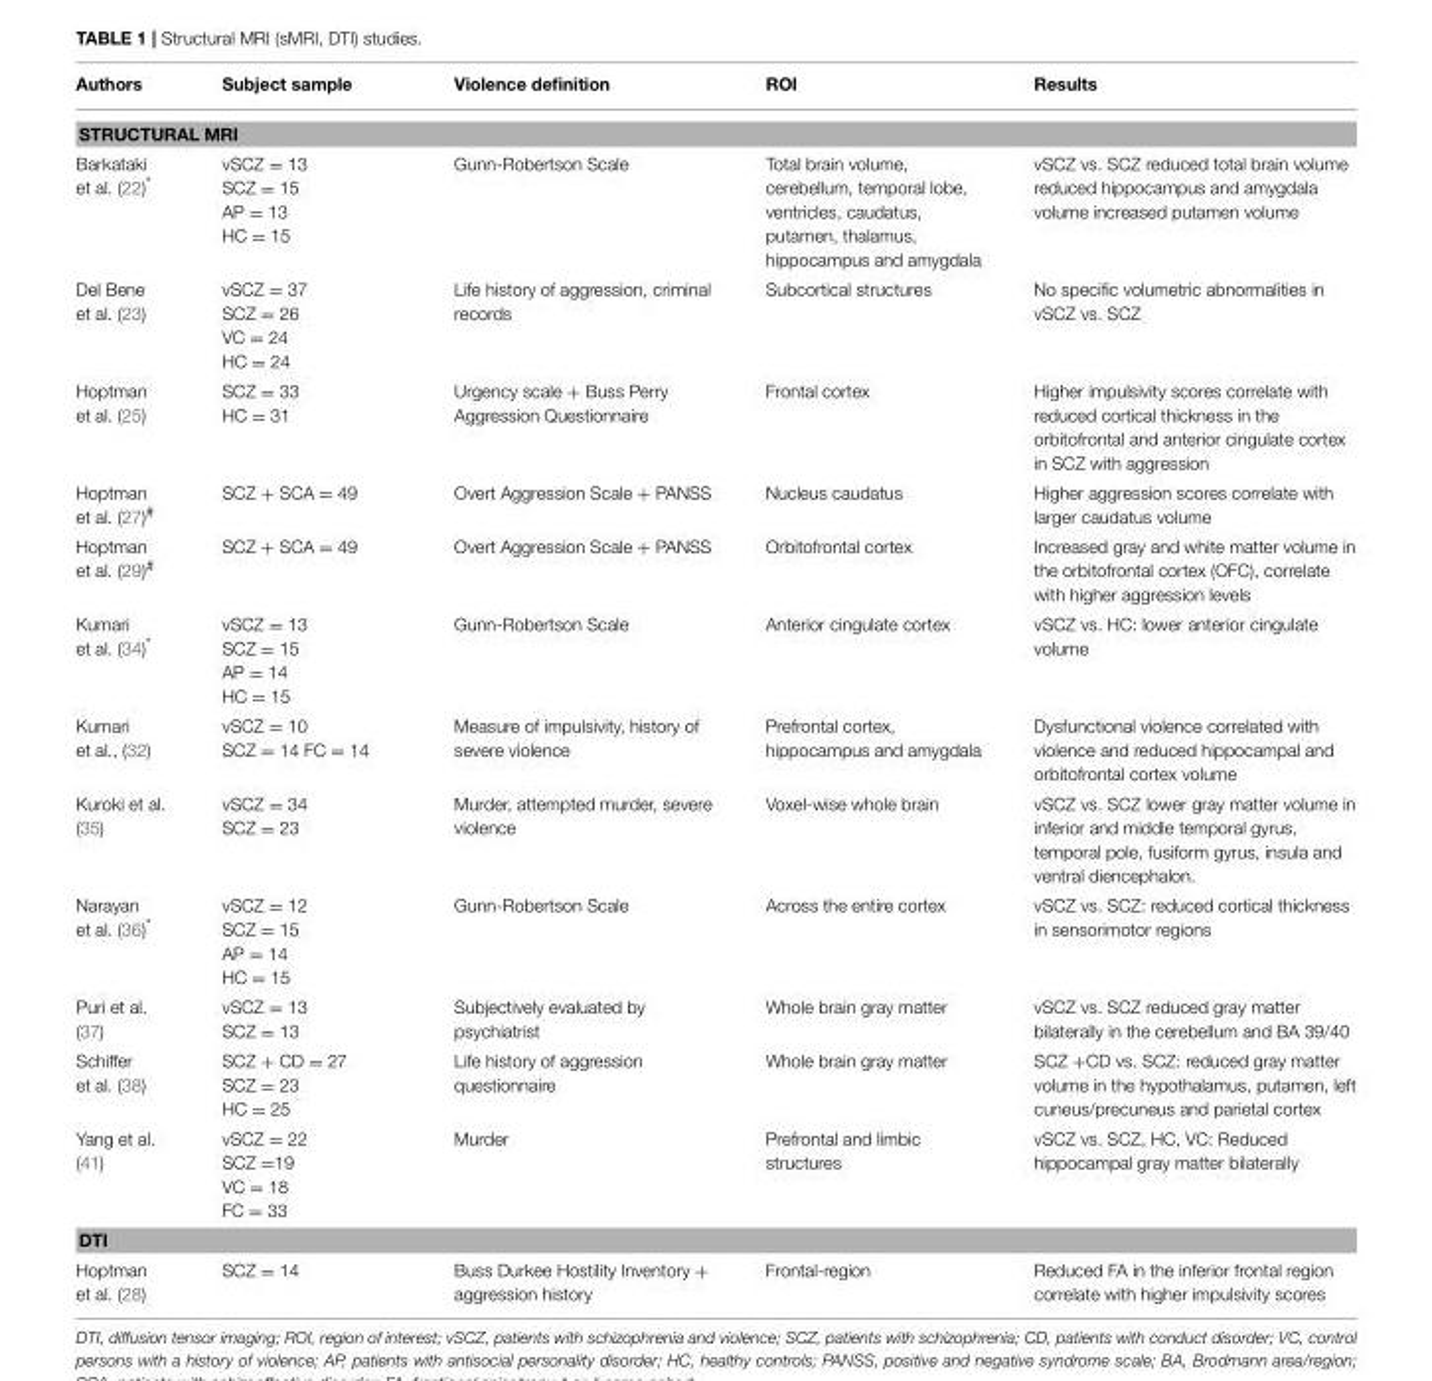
<table><thead><tr><td>Authors</td><td>Subject sample</td><td>Violence definition</td><td>ROI</td><td>Results</td></tr></thead><tbody><tr><td colspan="5">STRUCTURAL MRI</td></tr><tr><td>Barkataki et al. (22)*</td><td>vSCZ = 13 SCZ = 15 AP = 13 HC = 15</td><td>Gunn-Robertson Scale</td><td>Total brain volume, cerebellum, temporal lobe, ventricles, caudatus, putamen, thalamus, hippocampus and amygdala</td><td>vSCZ vs. SCZ reduced total brain volume reduced hippocampus and amygdala volume increased putamen volume</td></tr><tr><td>Del Bene et al. (23)</td><td>vSCZ = 37 SCZ = 26 VC = 24 HC = 24</td><td>Life history of aggression, criminal records</td><td>Subcortical structures</td><td>No specific volumetric abnormalities in vSCZ vs. SCZ</td></tr><tr><td>Hoptman et al. (25)</td><td>SCZ = 33 HC = 31</td><td>Urgency scale + Buss Perry Aggression Questionnaire</td><td>Frontal cortex</td><td>Higher impulsivity scores correlate with reduced cortical thickness in the orbitofrontal and anterior cingulate cortex in SCZ with aggression</td></tr><tr><td>Hoptman et al. (27)<sup>#</sup></td><td>SCZ + SCA = 49</td><td>Overt Aggression Scale + PANSS</td><td>Nucleus caudatus</td><td>Higher aggression scores correlate with larger caudatus volume</td></tr><tr><td>Hoptman et al. (29)<sup>#</sup></td><td>SCZ + SCA = 49</td><td>Overt Aggression Scale + PANSS</td><td>Orbitofrontal cortex</td><td>Increased gray and white matter volume in the orbitofrontal cortex (OFC), correlate with higher aggression levels</td></tr><tr><td>Kumari et al. (34)*</td><td>vSCZ = 13 SCZ = 15 AP = 14 HC = 15</td><td>Gunn-Robertson Scale</td><td>Anterior cingulate cortex</td><td>vSCZ vs. HC: lower anterior cingulate volume</td></tr><tr><td>Kumari et al., (32)</td><td>vSCZ = 10 SCZ = 14 FC = 14</td><td>Measure of impulsivity, history of severe violence</td><td>Prefrontal cortex, hippocampus and amygdala</td><td>Dysfunctional violence correlated with violence and reduced hippocampal and orbitofrontal cortex volume</td></tr><tr><td>Kuroki et al. (35)</td><td>vSCZ = 34 SCZ = 23</td><td>Murder, attempted murder, severe violence</td><td>Voxel-wise whole brain</td><td>vSCZ vs. SCZ lower gray matter volume in inferior and middle temporal gyrus, temporal pole, fusiform gyrus, insula and ventral diencephalon.</td></tr><tr><td>Narayan et al. (36)*</td><td>vSCZ = 12 SCZ = 15 AP = 14 HC = 15</td><td>Gunn-Robertson Scale</td><td>Across the entire cortex</td><td>vSCZ vs. SCZ: reduced cortical thickness in sensorimotor regions</td></tr><tr><td>Puri et al. (37)</td><td>vSCZ = 13 SCZ = 13</td><td>Subjectively evaluated by psychiatrist</td><td>Whole brain gray matter</td><td>vSCZ vs. SCZ reduced gray matter bilaterally in the cerebellum and BA 39/40</td></tr><tr><td>Schiffer et al. (38)</td><td>SCZ + CD = 27 SCZ = 23 HC = 25</td><td>Life history of aggression questionnaire</td><td>Whole brain gray matter</td><td>SCZ +CD vs. SCZ: reduced gray matter volume in the hypothalamus, putamen, left cuneus/precuneus and parietal cortex</td></tr><tr><td>Yang et al. (41)</td><td>vSCZ = 22 SCZ =19 VC = 18 FC = 33</td><td>Murder</td><td>Prefrontal and limbic structures</td><td>vSCZ vs. SCZ, HC, VC: Reduced hippocampal gray matter bilaterally</td></tr><tr><td colspan="5">DTI</td></tr><tr><td>Hoptman et al. (28)</td><td>SCZ = 14</td><td>Buss Durkee Hostility Inventory + aggression history</td><td>Frontal-region</td><td>Reduced FA in the inferior frontal region correlate with higher impulsivity scores</td></tr></tbody></table>